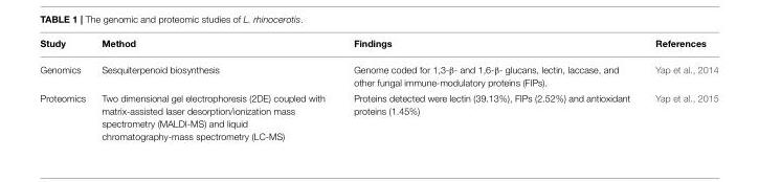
<table><thead><tr><td>Study</td><td>Method</td><td>Findings</td><td>References</td></tr></thead><tbody><tr><td>Genomics</td><td>Sesquiterpenoid biosynthesis</td><td>Genome coded for 1,3-β- and 1,6-β- glucans, lectin, laccase, and other fungal immune-modulatory proteins (FIPs).</td><td>Yap et al., 2014</td></tr><tr><td>Proteomics</td><td>Two dimensional gel electrophoresis (2DE) coupled with matrix-assisted laser desorption/ionization mass spectrometry (MALDI-MS) and liquid chromatography-mass spectrometry (LC-MS)</td><td>Proteins detected were lectin (39.13%), FIPs (2.52%) and antioxidant proteins (1.45%)</td><td>Yap et al., 2015</td></tr></tbody></table>